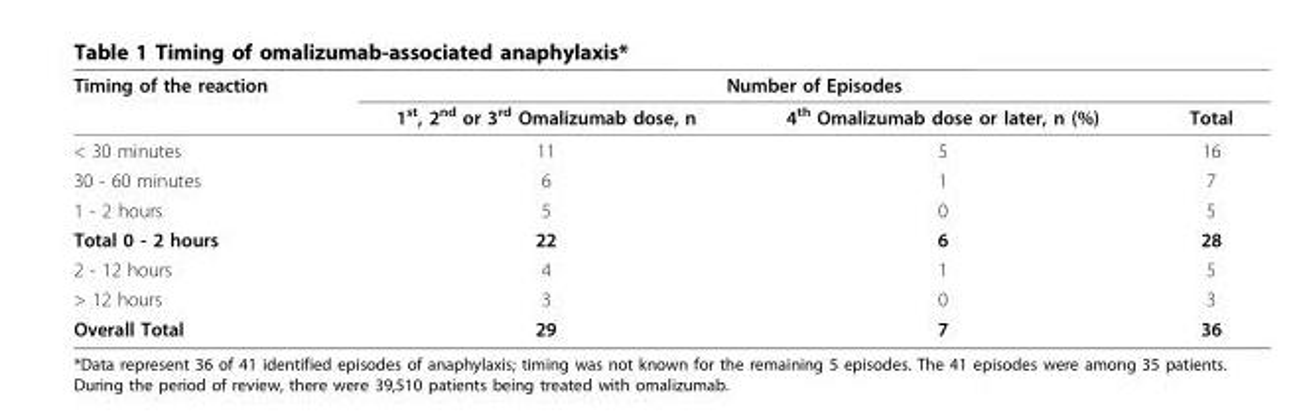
<table><thead><tr><td rowspan="2">Timing of the reaction</td><td colspan="3">Number of Episodes</td></tr><tr><td>1<sup>st</sup>, 2<sup>nd</sup> or 3<sup>rd</sup> Omalizumab dose, n</td><td>4<sup>th</sup> Omalizumab dose or later, n (%)</td><td>Total</td></tr></thead><tbody><tr><td>&lt; 30 minutes</td><td>11</td><td>5</td><td>16</td></tr><tr><td>30 - 60 minutes</td><td>6</td><td>1</td><td>7</td></tr><tr><td>1 - 2 hours</td><td>5</td><td>0</td><td>5</td></tr><tr><td>Total 0 - 2 hours</td><td>22</td><td>6</td><td>28</td></tr><tr><td>2 - 12 hours</td><td>4</td><td>1</td><td>5</td></tr><tr><td>&gt; 12 hours</td><td>3</td><td>0</td><td>3</td></tr><tr><td>Overall Total</td><td>29</td><td>7</td><td>36</td></tr></tbody></table>